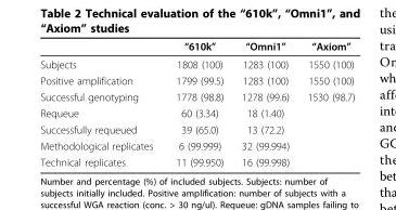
<table><thead><tr><td></td><td>“610k”</td><td>“Omni1”</td><td>“Axiom”</td></tr></thead><tbody><tr><td>Subjects</td><td>1808 (100)</td><td>1283 (100)</td><td>1550 (100)</td></tr><tr><td>Positive amplification</td><td>1799 (99.5)</td><td>1283 (100)</td><td>1550 (100)</td></tr><tr><td>Successful genotyping</td><td>1778 (98.8)</td><td>1278 (99.6)</td><td>1530 (98.7)</td></tr><tr><td>Requeue</td><td>60 (3.34)</td><td>18 (1.40)</td><td></td></tr><tr><td>Successfully requeued</td><td>39 (65.0)</td><td>13 (72.2)</td><td></td></tr><tr><td>Methodological replicates</td><td>6 (99.999)</td><td>32 (99.994)</td><td></td></tr><tr><td>Technical replicates</td><td>11 (99.950)</td><td>16 (99.998)</td><td></td></tr></tbody></table>